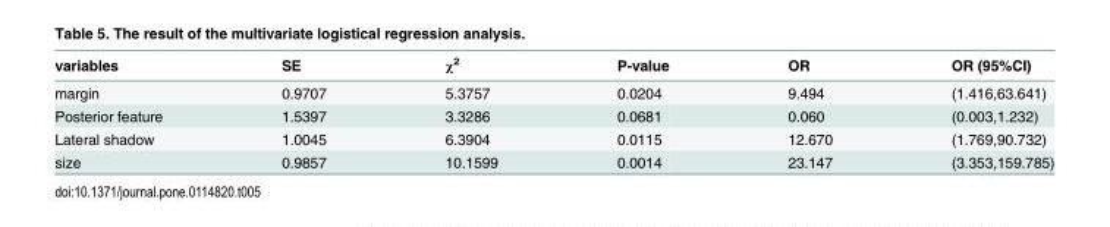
<table><thead><tr><td>variables</td><td>SE</td><td>χ<sup>2</sup></td><td>P-value</td><td>OR</td><td>OR (95%CI)</td></tr></thead><tbody><tr><td>margin</td><td>0.9707</td><td>5.3757</td><td>0.0204</td><td>9.494</td><td>(1.416,63.641)</td></tr><tr><td>Posterior feature</td><td>1.5397</td><td>3.3286</td><td>0.0681</td><td>0.060</td><td>(0.003,1.232)</td></tr><tr><td>Lateral shadow</td><td>1.0045</td><td>6.3904</td><td>0.0115</td><td>12.670</td><td>(1.769,90.732)</td></tr><tr><td>size</td><td>0.9857</td><td>10.1599</td><td>0.0014</td><td>23.147</td><td>(3.353,159.785)</td></tr></tbody></table>